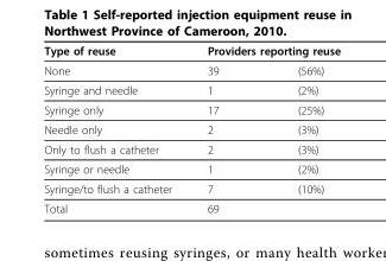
<table><thead><tr><td rowspan="2">Type of reuse None</td><td colspan="2">Providers reporting reuse</td></tr><tr><td>39</td><td>(56%)</td></tr></thead><tbody><tr><td>Syringe and needle</td><td>1</td><td>(2%)</td></tr><tr><td>Syringe only</td><td>17</td><td>(25%)</td></tr><tr><td>Needle only</td><td>2</td><td>(3%)</td></tr><tr><td>Only to flush a catheter</td><td>2</td><td>(3%)</td></tr><tr><td>Syringe or needle</td><td>1</td><td>(2%)</td></tr><tr><td>Syringe/to flush a catheter</td><td>7</td><td>(10%)</td></tr><tr><td>Total</td><td>69</td><td></td></tr></tbody></table>